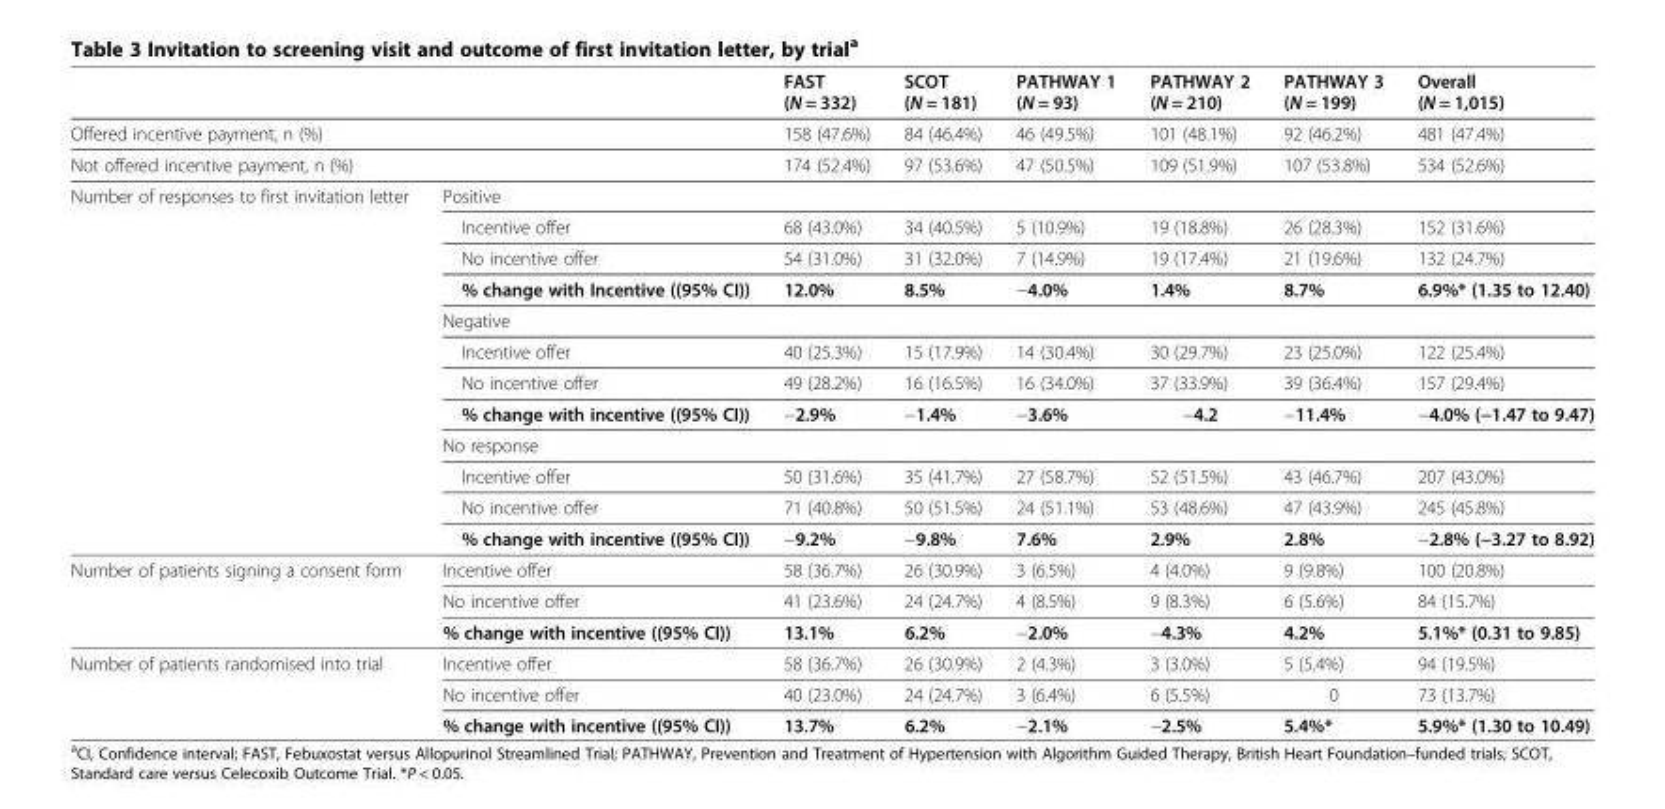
<table><thead><tr><td></td><td></td><td>FAST (N = 332)</td><td>SCOT (N = 181)</td><td>PATHWAY 1 (N = 93)</td><td>PATHWAY 2 (N = 210)</td><td>PATHWAY 3 (N = 199)</td><td>Overall (N = 1,015)</td></tr></thead><tbody><tr><td colspan="2">Offered incentive payment, n (%)</td><td>158 (47.6%)</td><td>84 (46.4%)</td><td>46 (49.5%)</td><td>101 (48.1%)</td><td>92 (46.2%)</td><td>481 (47.4%)</td></tr><tr><td colspan="2">Not offered incentive payment, n (%)</td><td>174 (52.4%)</td><td>97 (53.6%)</td><td>47 (50.5%)</td><td>109 (51.9%)</td><td>107 (53.8%)</td><td>534 (52.6%)</td></tr><tr><td rowspan="12">Number of responses to first invitation letter</td><td>Positive</td><td></td><td></td><td></td><td></td><td></td><td></td></tr><tr><td>Incentive offer</td><td>68 (43.0%)</td><td>34 (40.5%)</td><td>5 (10.9%)</td><td>19 (18.8%)</td><td>26 (28.3%)</td><td>152 (31.6%)</td></tr><tr><td>No incentive offer</td><td>54 (31.0%)</td><td>31 (32.0%)</td><td>7 (14.9%)</td><td>19 (17.4%)</td><td>21 (19.6%)</td><td>132 (24.7%)</td></tr><tr><td>% change with Incentive ((95% CI))</td><td>12.0%</td><td>8.5%</td><td>−4.0%</td><td>1.4%</td><td>8.7%</td><td>6.9%* (1.35 to 12.40)</td></tr><tr><td>Negative</td><td></td><td></td><td></td><td></td><td></td><td></td></tr><tr><td>Incentive offer</td><td>40 (25.3%)</td><td>15 (17.9%)</td><td>14 (30.4%)</td><td>30 (29.7%)</td><td>23 (25.0%)</td><td>122 (25.4%)</td></tr><tr><td>No incentive offer</td><td>49 (28.2%)</td><td>16 (16.5%)</td><td>16 (34.0%)</td><td>37 (33.9%)</td><td>39 (36.4%)</td><td>157 (29.4%)</td></tr><tr><td>% change with incentive ((95% CI))</td><td>−2.9%</td><td>−1.4%</td><td>−3.6%</td><td>−4.2</td><td>−11.4%</td><td>−4.0% (−1.47 to 9.47)</td></tr><tr><td>No response</td><td></td><td></td><td></td><td></td><td></td><td></td></tr><tr><td>Incentive offer</td><td>50 (31.6%)</td><td>35 (41.7%)</td><td>27 (58.7%)</td><td>52 (51.5%)</td><td>43 (46.7%)</td><td>207 (43.0%)</td></tr><tr><td>No incentive offer</td><td>71 (40.8%)</td><td>50 (51.5%)</td><td>24 (51.1%)</td><td>53 (48.6%)</td><td>47 (43.9%)</td><td>245 (45.8%)</td></tr><tr><td>% change with incentive ((95% CI))</td><td>−9.2%</td><td>−9.8%</td><td>7.6%</td><td>2.9%</td><td>2.8%</td><td>−2.8% (−3.27 to 8.92)</td></tr><tr><td rowspan="3">Number of patients signing a consent form</td><td>Incentive offer</td><td>58 (36.7%)</td><td>26 (30.9%)</td><td>3 (6.5%)</td><td>4 (4.0%)</td><td>9 (9.8%)</td><td>100 (20.8%)</td></tr><tr><td>No incentive offer</td><td>41 (23.6%)</td><td>24 (24.7%)</td><td>4 (8.5%)</td><td>9 (8.3%)</td><td>6 (5.6%)</td><td>84 (15.7%)</td></tr><tr><td>% change with incentive ((95% CI))</td><td>13.1%</td><td>6.2%</td><td>−2.0%</td><td>−4.3%</td><td>4.2%</td><td>5.1%* (0.31 to 9.85)</td></tr><tr><td rowspan="3">Number of patients randomised into trial</td><td>Incentive offer</td><td>58 (36.7%)</td><td>26 (30.9%)</td><td>2 (4.3%)</td><td>3 (3.0%)</td><td>5 (5.4%)</td><td>94 (19.5%)</td></tr><tr><td>No incentive offer</td><td>40 (23.0%)</td><td>24 (24.7%)</td><td>3 (6.4%)</td><td>6 (5.5%)</td><td>0</td><td>73 (13.7%)</td></tr><tr><td>% change with incentive ((95% CI))</td><td>13.7%</td><td>6.2%</td><td>−2.1%</td><td>−2.5%</td><td>5.4%*</td><td>5.9%* (1.30 to 10.49)</td></tr></tbody></table>